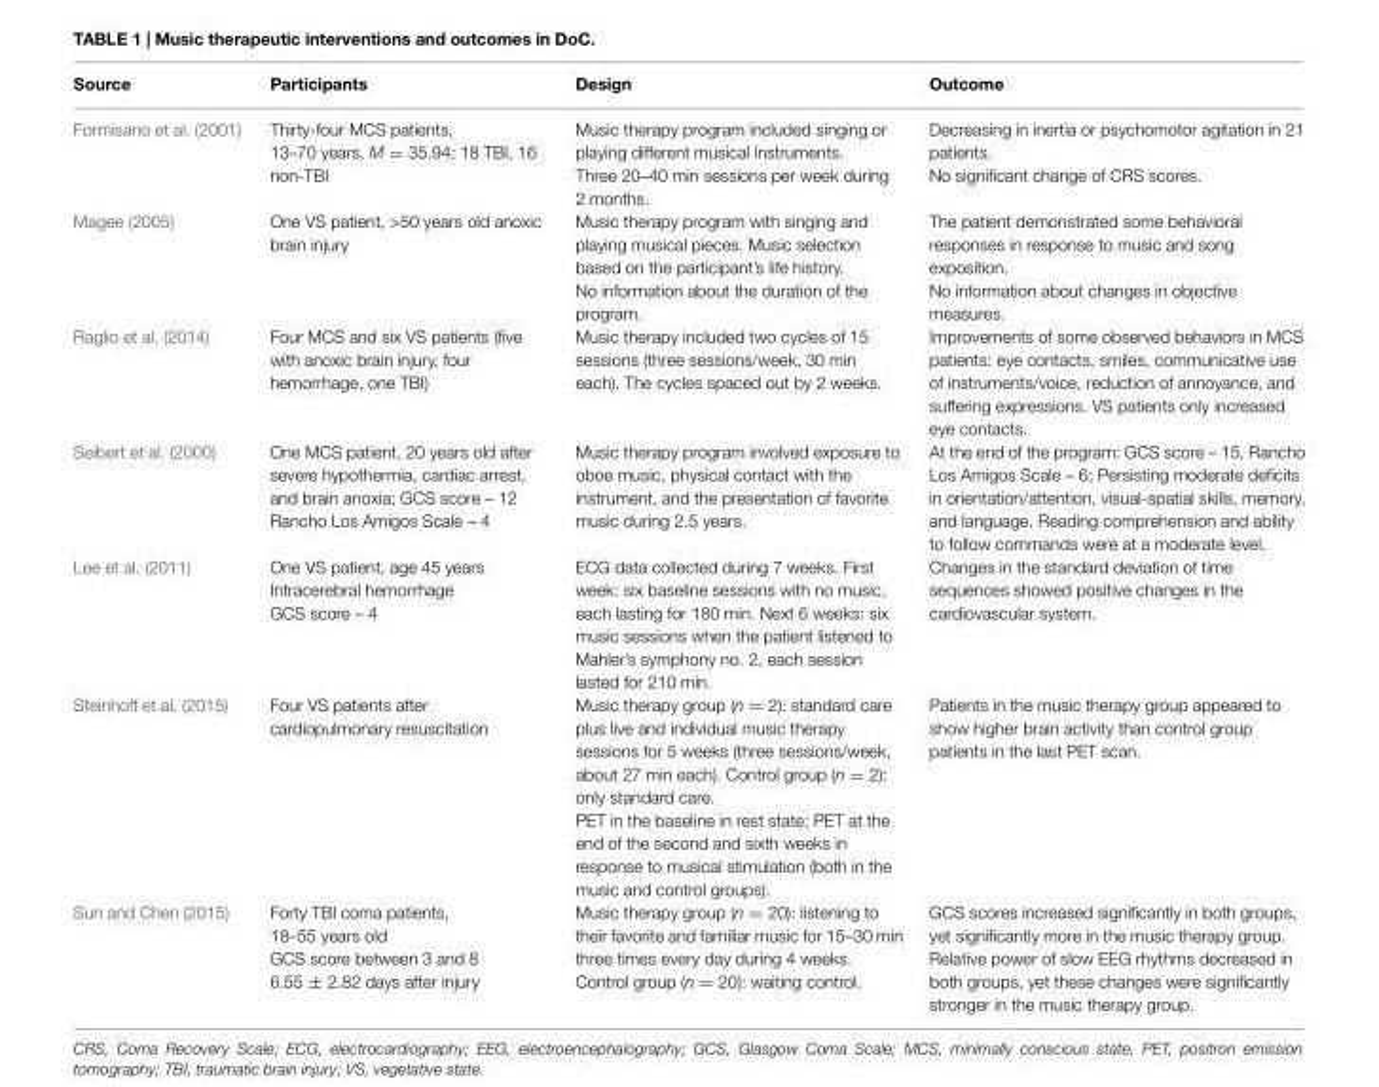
<table><thead><tr><td>Source</td><td>Participants</td><td>Design</td><td>Outcome</td></tr></thead><tbody><tr><td>Formisano et al. (2001)</td><td>Thirty-four MCS patients, 13–70 years, M = 35.94; 18 TBI, 16 non-TBI</td><td>Music therapy program included singing or playing different musical instruments. Three 20–40 min sessions per week during 2 months.</td><td>Decreasing in inertia or psychomotor agitation in 21 patients. No significant change of CRS scores.</td></tr><tr><td>Magee (2005)</td><td>One VS patient, &gt;50 years old anoxic brain injury</td><td>Music therapy program with singing and playing musical pieces. Music selection based on the participant’s life history. No information about the duration of the program.</td><td>The patient demonstrated some behavioral responses in response to music and song exposition. No information about changes in objective measures.</td></tr><tr><td>Raglio et al. (2014)</td><td>Four MCS and six VS patients (five with anoxic brain injury, four hemorrhage, one TBI)</td><td>Music therapy included two cycles of 15 sessions (three sessions/week, 30 min each). The cycles spaced out by 2 weeks.</td><td>Improvements of some observed behaviors in MCS patients: eye contacts, smiles, communicative use of instruments/voice, reduction of annoyance, and suffering expressions. VS patients only increased eye contacts.</td></tr><tr><td>Seibert et al. (2000)</td><td>One MCS patient, 20 years old after severe hypothermia, cardiac arrest, and brain anoxia; GCS score – 12 Rancho Los Amigos Scale – 4</td><td>Music therapy program involved exposure to oboe music, physical contact with the instrument, and the presentation of favorite music during 2.5 years.</td><td>At the end of the program: GCS score – 15, Rancho Los Amigos Scale – 6; Persisting moderate deficits in orientation/attention, visual-spatial skills, memory, and language. Reading comprehension and ability to follow commands were at a moderate level.</td></tr><tr><td>Lee et al. (2011)</td><td>One VS patient, age 45 years Intracerebral hemorrhage GCS score – 4</td><td>ECG data collected during 7 weeks. First week: six baseline sessions with no music, each lasting for 180 min. Next 6 weeks: six music sessions when the patient listened to Mahler’s symphony no. 2, each session lasted for 210 min.</td><td>Changes in the standard deviation of time sequences showed positive changes in the cardiovascular system.</td></tr><tr><td>Steinhoff et al. (2015)</td><td>Four VS patients after cardiopulmonary resuscitation</td><td>Music therapy group (n = 2): standard care plus live and individual music therapy sessions for 5 weeks (three sessions/week, about 27 min each). Control group (n = 2): only standard care. PET in the baseline in rest state; PET at the end of the second and sixth weeks in response to musical stimulation (both in the music and control groups).</td><td>Patients in the music therapy group appeared to show higher brain activity than control group patients in the last PET scan.</td></tr><tr><td>Sun and Chen (2015)</td><td>Forty TBI coma patients, 18–55 years old GCS score between 3 and 8 6.55 ± 2.82 days after injury</td><td>Music therapy group (n = 20): listening to their favorite and familiar music for 15–30 min three times every day during 4 weeks. Control group (n = 20): waiting control.</td><td>GCS scores increased significantly in both groups, yet significantly more in the music therapy group. Relative power of slow EEG rhythms decreased in both groups, yet these changes were significantly stronger in the music therapy group.</td></tr></tbody></table>